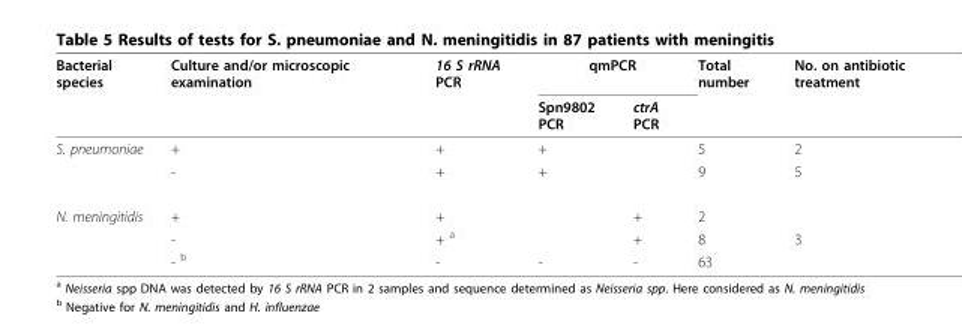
<table><thead><tr><td rowspan="2">Bacterial species</td><td rowspan="2">Culture and/or microscopic examination</td><td rowspan="2">16 S rRNA PCR</td><td colspan="2">qmPCR</td><td rowspan="2">Total number</td><td rowspan="2">No. on antibiotic treatment</td></tr><tr><td>Spn9802 PCR</td><td>ctrA PCR</td></tr></thead><tbody><tr><td rowspan="2">S. pneumoniae</td><td>+</td><td>+</td><td>+</td><td></td><td>5</td><td>2</td></tr><tr><td>-</td><td>+</td><td>+</td><td></td><td>9</td><td>5</td></tr><tr><td rowspan="3">N. meningitidis</td><td>+</td><td>+</td><td></td><td>+</td><td>2</td><td></td></tr><tr><td>-</td><td>+ <sup>a</sup></td><td></td><td>+</td><td>8</td><td>3</td></tr><tr><td>- <sup>b</sup></td><td>-</td><td>-</td><td>-</td><td>63</td><td></td></tr></tbody></table>